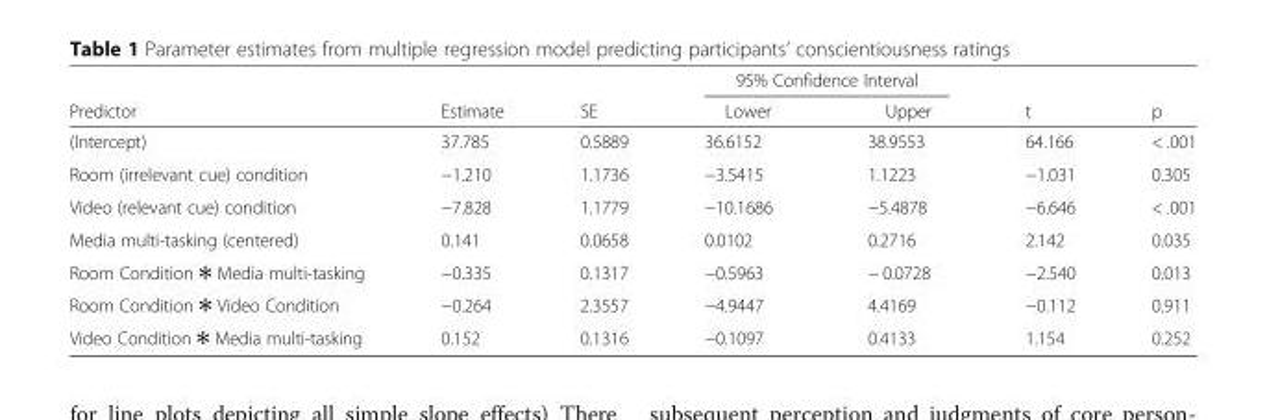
<table><thead><tr><td rowspan="2">Predictor</td><td rowspan="2">Estimate</td><td rowspan="2">SE</td><td colspan="2">95% Confidence Interval</td><td rowspan="2">t</td><td rowspan="2">p</td></tr><tr><td>Lower</td><td>Upper</td></tr></thead><tbody><tr><td>(Intercept)</td><td>37.785</td><td>0.5889</td><td>36.6152</td><td>38.9553</td><td>64.166</td><td>&lt; .001</td></tr><tr><td>Room (irrelevant cue) condition</td><td>−1.210</td><td>1.1736</td><td>−3.5415</td><td>1.1223</td><td>−1.031</td><td>0.305</td></tr><tr><td>Video (relevant cue) condition</td><td>−7.828</td><td>1.1779</td><td>−10.1686</td><td>−5.4878</td><td>−6.646</td><td>&lt; .001</td></tr><tr><td>Media multi-tasking (centered)</td><td>0.141</td><td>0.0658</td><td>0.0102</td><td>0.2716</td><td>2.142</td><td>0.035</td></tr><tr><td>Room Condition ✻ Media multi-tasking</td><td>−0.335</td><td>0.1317</td><td>−0.5963</td><td>− 0.0728</td><td>−2.540</td><td>0.013</td></tr><tr><td>Room Condition ✻ Video Condition</td><td>−0.264</td><td>2.3557</td><td>−4.9447</td><td>4.4169</td><td>−0.112</td><td>0.911</td></tr><tr><td>Video Condition ✻ Media multi-tasking</td><td>0.152</td><td>0.1316</td><td>−0.1097</td><td>0.4133</td><td>1.154</td><td>0.252</td></tr></tbody></table>